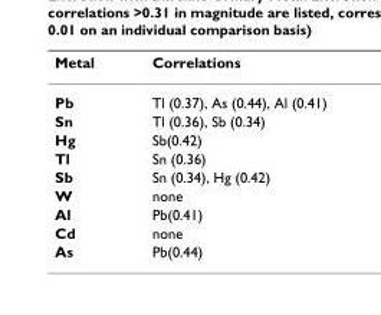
<table><thead><tr><td>Metal</td><td>Correlations</td></tr></thead><tbody><tr><td>Pb</td><td>Tl (0.37), As (0.44), Al (0.41)</td></tr><tr><td>Sn</td><td>Tl (0.36), Sb (0.34)</td></tr><tr><td>Hg</td><td>Sb(0.42)</td></tr><tr><td>Tl</td><td>Sn (0.36)</td></tr><tr><td>Sb</td><td>Sn (0.34), Hg (0.42)</td></tr><tr><td>W</td><td>none</td></tr><tr><td>Al</td><td>Pb(0.41)</td></tr><tr><td>Cd</td><td>none</td></tr><tr><td>As</td><td>Pb(0.44)</td></tr></tbody></table>